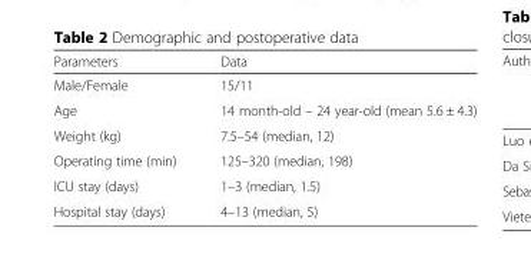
<table><thead><tr><td>Parameters</td><td>Data</td></tr></thead><tbody><tr><td>Male/Female</td><td>15/11</td></tr><tr><td>Age</td><td>14 month-old – 24 year-old (mean 5.6 ± 4.3)</td></tr><tr><td>Weight (kg)</td><td>7.5–54 (median, 12)</td></tr><tr><td>Operating time (min)</td><td>125–320 (median, 198)</td></tr><tr><td>ICU stay (days)</td><td>1–3 (median, 1.5)</td></tr><tr><td>Hospital stay (days)</td><td>4–13 (median, 5)</td></tr></tbody></table>